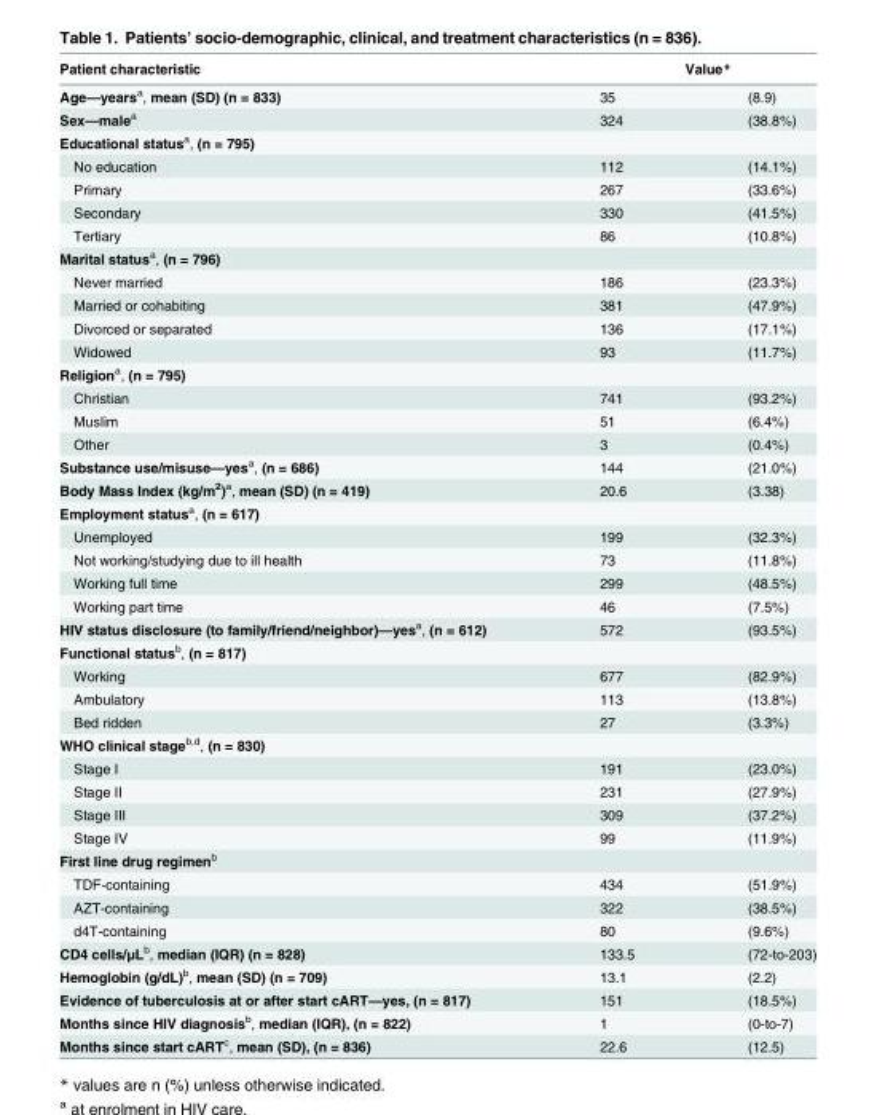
<table><thead><tr><td rowspan="2">Patient characteristic Age—years<sup>a</sup>, mean (SD) (n = 833)</td><td colspan="2">Value*</td></tr><tr><td>35</td><td>(8.9)</td></tr></thead><tbody><tr><td>Sex—male<sup>a</sup></td><td>324</td><td>(38.8%)</td></tr><tr><td colspan="3">Educational status<sup>a</sup>, (n = 795)</td></tr><tr><td>No education</td><td>112</td><td>(14.1%)</td></tr><tr><td>Primary</td><td>267</td><td>(33.6%)</td></tr><tr><td>Secondary</td><td>330</td><td>(41.5%)</td></tr><tr><td>Tertiary</td><td>86</td><td>(10.8%)</td></tr><tr><td colspan="3">Marital status<sup>a</sup>, (n = 796)</td></tr><tr><td>Never married</td><td>186</td><td>(23.3%)</td></tr><tr><td>Married or cohabiting</td><td>381</td><td>(47.9%)</td></tr><tr><td>Divorced or separated</td><td>136</td><td>(17.1%)</td></tr><tr><td>Widowed</td><td>93</td><td>(11.7%)</td></tr><tr><td colspan="3">Religion<sup>a</sup>, (n = 795)</td></tr><tr><td>Christian</td><td>741</td><td>(93.2%)</td></tr><tr><td>Muslim</td><td>51</td><td>(6.4%)</td></tr><tr><td>Other</td><td>3</td><td>(0.4%)</td></tr><tr><td>Substance use/misuse—yes<sup>a</sup>, (n = 686)</td><td>144</td><td>(21.0%)</td></tr><tr><td>Body Mass Index (kg/m<sup>2</sup>)<sup>a</sup>, mean (SD) (n = 419)</td><td>20.6</td><td>(3.38)</td></tr><tr><td colspan="3">Employment status<sup>a</sup>, (n = 617)</td></tr><tr><td>Unemployed</td><td>199</td><td>(32.3%)</td></tr><tr><td>Not working/studying due to ill health</td><td>73</td><td>(11.8%)</td></tr><tr><td>Working full time</td><td>299</td><td>(48.5%)</td></tr><tr><td>Working part time</td><td>46</td><td>(7.5%)</td></tr><tr><td>HIV status disclosure (to family/friend/neighbor)—yes<sup>a</sup>, (n = 612)</td><td>572</td><td>(93.5%)</td></tr><tr><td colspan="3">Functional status<sup>b</sup>, (n = 817)</td></tr><tr><td>Working</td><td>677</td><td>(82.9%)</td></tr><tr><td>Ambulatory</td><td>113</td><td>(13.8%)</td></tr><tr><td>Bed ridden</td><td>27</td><td>(3.3%)</td></tr><tr><td colspan="3">WHO clinical stage<sup>b,d</sup>, (n = 830)</td></tr><tr><td>Stage I</td><td>191</td><td>(23.0%)</td></tr><tr><td>Stage II</td><td>231</td><td>(27.9%)</td></tr><tr><td>Stage III</td><td>309</td><td>(37.2%)</td></tr><tr><td>Stage IV</td><td>99</td><td>(11.9%)</td></tr><tr><td colspan="3">First line drug regimen<sup>b</sup></td></tr><tr><td>TDF-containing</td><td>434</td><td>(51.9%)</td></tr><tr><td>AZT-containing</td><td>322</td><td>(38.5%)</td></tr><tr><td>d4T-containing</td><td>80</td><td>(9.6%)</td></tr><tr><td>CD4 cells/μL<sup>b</sup>, median (IQR) (n = 828)</td><td>133.5</td><td>(72-to-203)</td></tr><tr><td>Hemoglobin (g/dL)<sup>b</sup>, mean (SD) (n = 709)</td><td>13.1</td><td>(2.2)</td></tr><tr><td>Evidence of tuberculosis at or after start cART—yes, (n = 817)</td><td>151</td><td>(18.5%)</td></tr><tr><td>Months since HIV diagnosis<sup>b</sup>, median (IQR), (n = 822)</td><td>1</td><td>(0-to-7)</td></tr><tr><td>Months since start cART<sup>c</sup>, mean (SD), (n = 836)</td><td>22.6</td><td>(12.5)</td></tr></tbody></table>